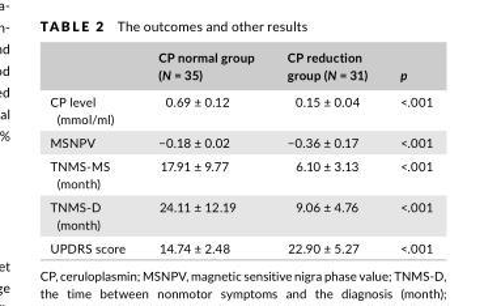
<table><thead><tr><td></td><td>CP normal group (N = 35)</td><td>CP reduction group (N = 31)</td><td>p</td></tr></thead><tbody><tr><td>CP level (mmol/ml)</td><td>0.69 ± 0.12</td><td>0.15 ± 0.04</td><td>&lt;.001</td></tr><tr><td>MSNPV</td><td>−0.18 ± 0.02</td><td>−0.36 ± 0.17</td><td>&lt;.001</td></tr><tr><td>TNMS- MS (month)</td><td>17.91 ± 9.77</td><td>6.10 ± 3.13</td><td>&lt;.001</td></tr><tr><td>TNMS- D (month)</td><td>24.11 ± 12.19</td><td>9.06 ± 4.76</td><td>&lt;.001</td></tr><tr><td>UPDRS score</td><td>14.74 ± 2.48</td><td>22.90 ± 5.27</td><td>&lt;.001</td></tr></tbody></table>